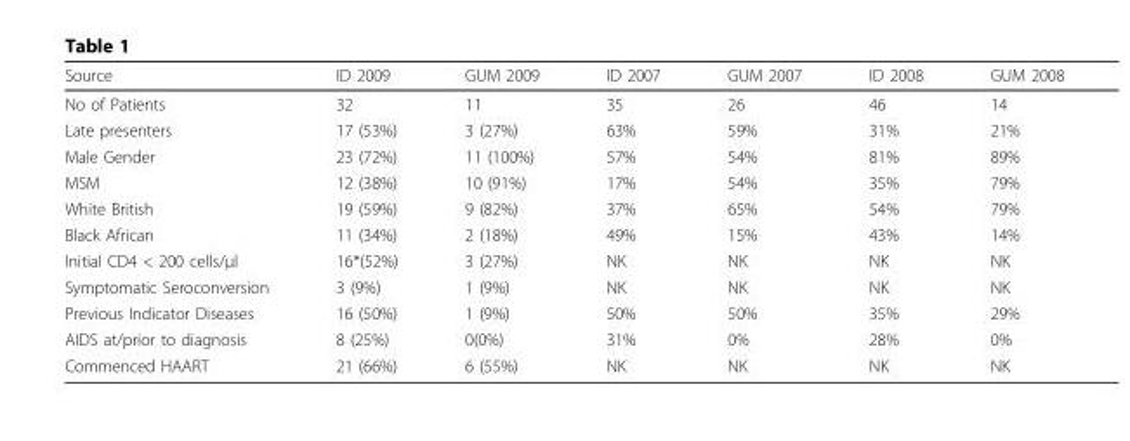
<table><thead><tr><td>Source</td><td>ID 2009</td><td>GUM 2009</td><td>ID 2007</td><td>GUM 2007</td><td>ID 2008</td><td>GUM 2008</td></tr></thead><tbody><tr><td>No of Patients</td><td>32</td><td>11</td><td>35</td><td>26</td><td>46</td><td>14</td></tr><tr><td>Late presenters</td><td>17 (53%)</td><td>3 (27%)</td><td>63%</td><td>59%</td><td>31%</td><td>21%</td></tr><tr><td>Male Gender</td><td>23 (72%)</td><td>11 (100%)</td><td>57%</td><td>54%</td><td>81%</td><td>89%</td></tr><tr><td>MSM</td><td>12 (38%)</td><td>10 (91%)</td><td>17%</td><td>54%</td><td>35%</td><td>79%</td></tr><tr><td>White British</td><td>19 (59%)</td><td>9 (82%)</td><td>37%</td><td>65%</td><td>54%</td><td>79%</td></tr><tr><td>Black African</td><td>11 (34%)</td><td>2 (18%)</td><td>49%</td><td>15%</td><td>43%</td><td>14%</td></tr><tr><td>Initial CD4 &lt; 200 cells/µl</td><td>16*(52%)</td><td>3 (27%)</td><td>NK</td><td>NK</td><td>NK</td><td>NK</td></tr><tr><td>Symptomatic Seroconversion</td><td>3 (9%)</td><td>1 (9%)</td><td>NK</td><td>NK</td><td>NK</td><td>NK</td></tr><tr><td>Previous Indicator Diseases</td><td>16 (50%)</td><td>1 (9%)</td><td>50%</td><td>50%</td><td>35%</td><td>29%</td></tr><tr><td>AIDS at/prior to diagnosis</td><td>8 (25%)</td><td>0(0%)</td><td>31%</td><td>0%</td><td>28%</td><td>0%</td></tr><tr><td>Commenced HAART</td><td>21 (66%)</td><td>6 (55%)</td><td>NK</td><td>NK</td><td>NK</td><td>NK</td></tr></tbody></table>